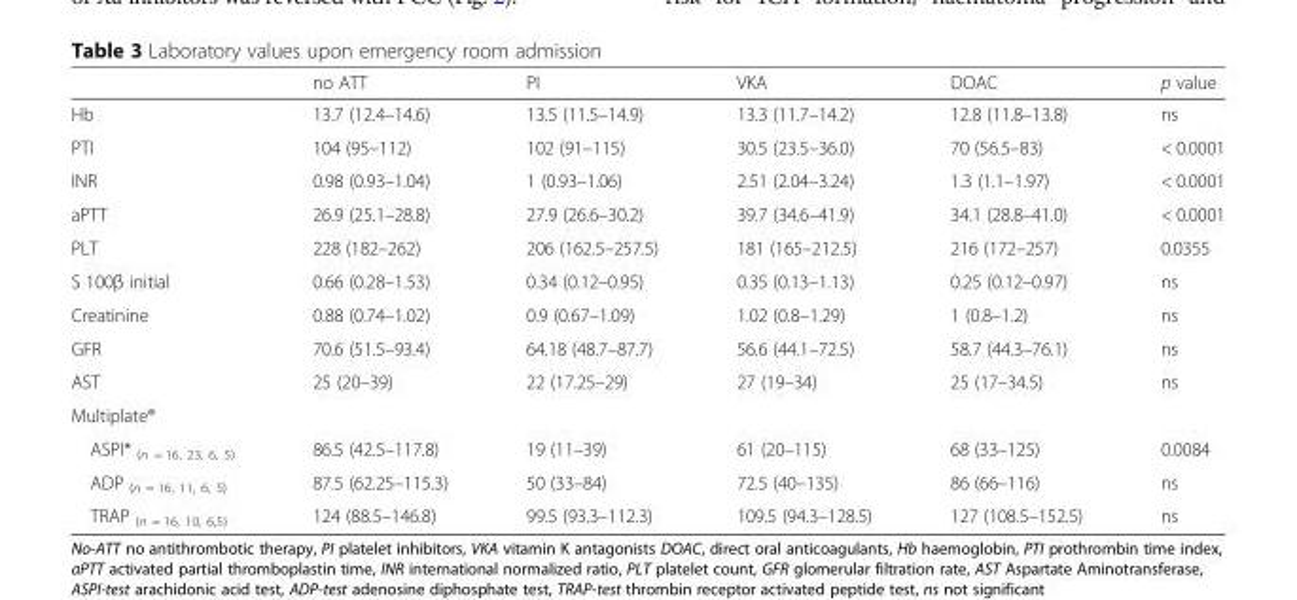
<table><thead><tr><td></td><td>no ATT</td><td>PI</td><td>VKA</td><td>DOAC</td><td>p value</td></tr></thead><tbody><tr><td>Hb</td><td>13.7 (12.4–14.6)</td><td>13.5 (11.5–14.9)</td><td>13.3 (11.7–14.2)</td><td>12.8 (11.8–13.8)</td><td>ns</td></tr><tr><td>PTI</td><td>104 (95–112)</td><td>102 (91–115)</td><td>30.5 (23.5–36.0)</td><td>70 (56.5–83)</td><td>&lt; 0.0001</td></tr><tr><td>INR</td><td>0.98 (0.93–1.04)</td><td>1 (0.93–1.06)</td><td>2.51 (2.04–3.24)</td><td>1.3 (1.1–1.97)</td><td>&lt; 0.0001</td></tr><tr><td>aPTT</td><td>26.9 (25.1–28.8)</td><td>27.9 (26.6–30.2)</td><td>39.7 (34.6–41.9)</td><td>34.1 (28.8–41.0)</td><td>&lt; 0.0001</td></tr><tr><td>PLT</td><td>228 (182–262)</td><td>206 (162.5–257.5)</td><td>181 (165–212.5)</td><td>216 (172–257)</td><td>0.0355</td></tr><tr><td>S 100β initial</td><td>0.66 (0.28–1.53)</td><td>0.34 (0.12–0.95)</td><td>0.35 (0.13–1.13)</td><td>0.25 (0.12–0.97)</td><td>ns</td></tr><tr><td>Creatinine</td><td>0.88 (0.74–1.02)</td><td>0.9 (0.67–1.09)</td><td>1.02 (0.8–1.29)</td><td>1 (0.8–1.2)</td><td>ns</td></tr><tr><td>GFR</td><td>70.6 (51.5–93.4)</td><td>64.18 (48.7–87.7)</td><td>56.6 (44.1–72.5)</td><td>58.7 (44.3–76.1)</td><td>ns</td></tr><tr><td>AST</td><td>25 (20–39)</td><td>22 (17.25–29)</td><td>27 (19–34)</td><td>25 (17–34.5)</td><td>ns</td></tr><tr><td colspan="6">Multiplate®</td></tr><tr><td>ASPI* <sub>(n = 16, 23, 6, 5)</sub></td><td>86.5 (42.5–117.8)</td><td>19 (11–39)</td><td>61 (20–115)</td><td>68 (33–125)</td><td>0.0084</td></tr><tr><td>ADP <sub>(n = 16, 11, 6, 5)</sub></td><td>87.5 (62.25–115.3)</td><td>50 (33–84)</td><td>72.5 (40–135)</td><td>86 (66–116)</td><td>ns</td></tr><tr><td>TRAP <sub>(n = 16, 10, 6,5)</sub></td><td>124 (88.5–146.8)</td><td>99.5 (93.3–112.3)</td><td>109.5 (94.3–128.5)</td><td>127 (108.5–152.5)</td><td>ns</td></tr></tbody></table>